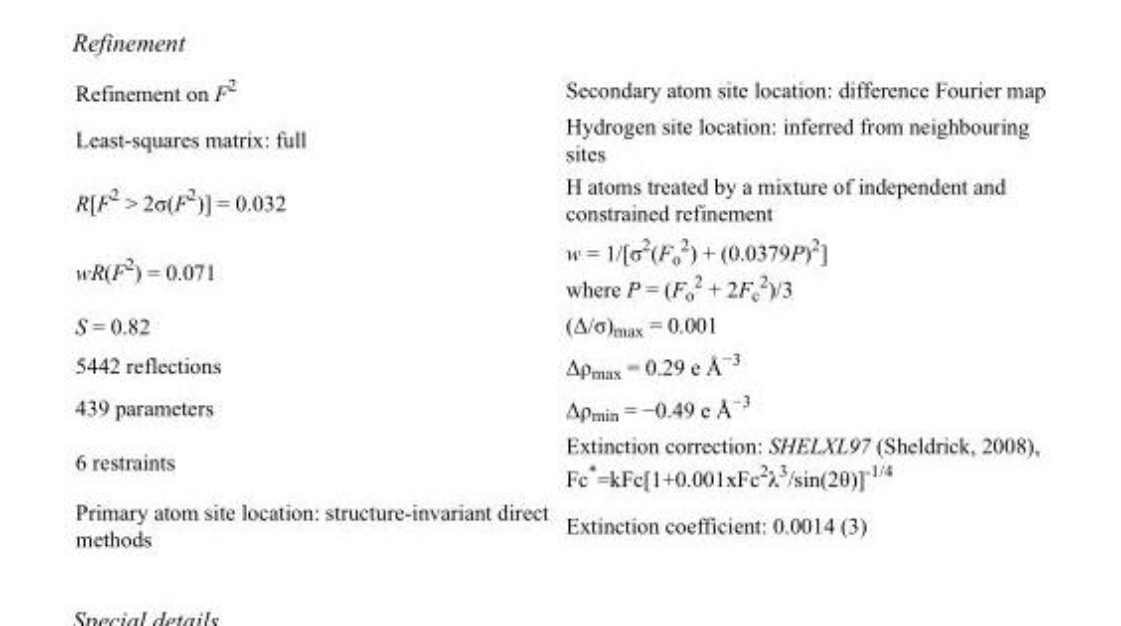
<table><tbody><tr><td>Refinement on F<sup>2</sup></td><td>Secondary atom site location: difference Fourier map</td></tr><tr><td>Least-squares matrix: full</td><td>Hydrogen site location: inferred from neighbouring sites</td></tr><tr><td>R[F<sup>2</sup> &gt; 2σ(F<sup>2</sup>)] = 0.032</td><td>H atoms treated by a mixture of independent and constrained refinement</td></tr><tr><td>wR(F<sup>2</sup>) = 0.071</td><td>w = 1/[σ<sup>2</sup>(F<sub>o</sub> <sup>2</sup>) + (0.0379P)<sup>2</sup>] where P = (F<sub>o</sub> <sup>2</sup> + 2F<sub>c</sub> <sup>2</sup>)/3</td></tr><tr><td>S = 0.82</td><td>(Δ/σ)<sub>max</sub> = 0.001</td></tr><tr><td>5442 reflections</td><td>Δρ<sub>max</sub> = 0.29 e Å<sup>−3</sup></td></tr><tr><td>439 parameters</td><td>Δρ<sub>min</sub> = −0.49 e Å<sup>−3</sup></td></tr><tr><td>6 restraints</td><td>Extinction correction: SHELXL97 (Sheldrick, 2008), Fc*=kFc[1+0.001xFc<sup>2</sup>λ<sup>3</sup>/sin(2θ)]<sup>-1/4</sup></td></tr><tr><td>Primary atom site location: structure-invariant direct methods</td><td>Extinction coefficient: 0.0014 (3)</td></tr></tbody></table>